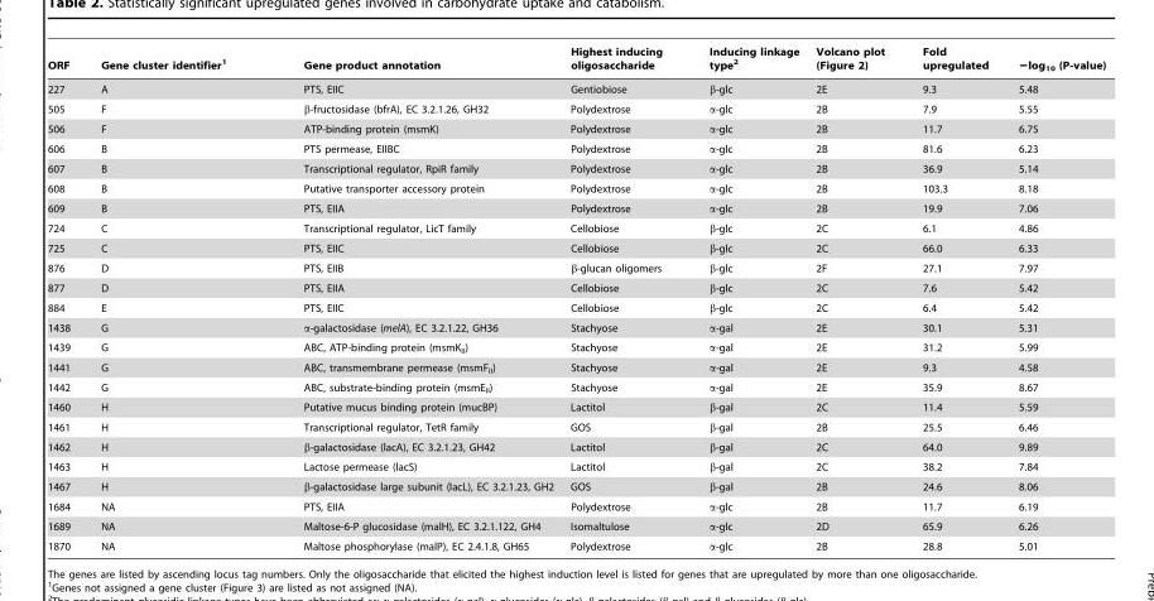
<table><thead><tr><td>ORF</td><td>Gene cluster identifier<sup>1</sup></td><td>Gene product annotation</td><td>Highest inducing oligosaccharide</td><td>Inducing linkage type<sup>2</sup></td><td>Volcano plot (Figure 2)</td><td>Fold upregulated</td><td>−log<sub>10</sub> (P-value)</td></tr></thead><tbody><tr><td>227</td><td>A</td><td>PTS, EIIC</td><td>Gentiobiose</td><td>β-glc</td><td>2E</td><td>9.3</td><td>5.48</td></tr><tr><td>505</td><td>F</td><td>β-fructosidase (bfrA), EC 3.2.1.26, GH32</td><td>Polydextrose</td><td>α-glc</td><td>2B</td><td>7.9</td><td>5.55</td></tr><tr><td>506</td><td>F</td><td>ATP-binding protein (msmK)</td><td>Polydextrose</td><td>α-glc</td><td>2B</td><td>11.7</td><td>6.75</td></tr><tr><td>606</td><td>B</td><td>PTS permease, EIIBC</td><td>Polydextrose</td><td>α-glc</td><td>2B</td><td>81.6</td><td>6.23</td></tr><tr><td>607</td><td>B</td><td>Transcriptional regulator, RpiR family</td><td>Polydextrose</td><td>α-glc</td><td>2B</td><td>36.9</td><td>5.14</td></tr><tr><td>608</td><td>B</td><td>Putative transporter accessory protein</td><td>Polydextrose</td><td>α-glc</td><td>2B</td><td>103.3</td><td>8.18</td></tr><tr><td>609</td><td>B</td><td>PTS, EIIA</td><td>Polydextrose</td><td>α-glc</td><td>2B</td><td>19.9</td><td>7.06</td></tr><tr><td>724</td><td>C</td><td>Transcriptional regulator, LicT family</td><td>Cellobiose</td><td>β-glc</td><td>2C</td><td>6.1</td><td>4.86</td></tr><tr><td>725</td><td>C</td><td>PTS, EIIC</td><td>Cellobiose</td><td>β-glc</td><td>2C</td><td>66.0</td><td>6.33</td></tr><tr><td>876</td><td>D</td><td>PTS, EIIB</td><td>β-glucan oligomers</td><td>β-glc</td><td>2F</td><td>27.1</td><td>7.97</td></tr><tr><td>877</td><td>D</td><td>PTS, EIIA</td><td>Cellobiose</td><td>β-glc</td><td>2C</td><td>7.6</td><td>5.42</td></tr><tr><td>884</td><td>E</td><td>PTS, EIIC</td><td>Cellobiose</td><td>β-glc</td><td>2C</td><td>6.4</td><td>5.42</td></tr><tr><td>1438</td><td>G</td><td>α-galactosidase (melA), EC 3.2.1.22, GH36</td><td>Stachyose</td><td>α-gal</td><td>2E</td><td>30.1</td><td>5.31</td></tr><tr><td>1439</td><td>G</td><td>ABC, ATP-binding protein (msmK<sub>II</sub>)</td><td>Stachyose</td><td>α-gal</td><td>2E</td><td>31.2</td><td>5.99</td></tr><tr><td>1441</td><td>G</td><td>ABC, transmembrane permease (msmF<sub>II</sub>)</td><td>Stachyose</td><td>α-gal</td><td>2E</td><td>9.3</td><td>4.58</td></tr><tr><td>1442</td><td>G</td><td>ABC, substrate-binding protein (msmE<sub>II</sub>)</td><td>Stachyose</td><td>α-gal</td><td>2E</td><td>35.9</td><td>8.67</td></tr><tr><td>1460</td><td>H</td><td>Putative mucus binding protein (mucBP)</td><td>Lactitol</td><td>β-gal</td><td>2C</td><td>11.4</td><td>5.59</td></tr><tr><td>1461</td><td>H</td><td>Transcriptional regulator, TetR family</td><td>GOS</td><td>β-gal</td><td>2B</td><td>25.5</td><td>6.46</td></tr><tr><td>1462</td><td>H</td><td>β-galactosidase (lacA), EC 3.2.1.23, GH42</td><td>Lactitol</td><td>β-gal</td><td>2C</td><td>64.0</td><td>9.89</td></tr><tr><td>1463</td><td>H</td><td>Lactose permease (lacS)</td><td>Lactitol</td><td>β-gal</td><td>2C</td><td>38.2</td><td>7.84</td></tr><tr><td>1467</td><td>H</td><td>β-galactosidase large subunit (lacL), EC 3.2.1.23, GH2</td><td>GOS</td><td>β-gal</td><td>2B</td><td>24.6</td><td>8.06</td></tr><tr><td>1684</td><td>NA</td><td>PTS, EIIA</td><td>Polydextrose</td><td>α-glc</td><td>2B</td><td>11.7</td><td>6.19</td></tr><tr><td>1689</td><td>NA</td><td>Maltose-6-P glucosidase (malH), EC 3.2.1.122, GH4</td><td>Isomaltulose</td><td>α-glc</td><td>2D</td><td>65.9</td><td>6.26</td></tr><tr><td>1870</td><td>NA</td><td>Maltose phosphorylase (malP), EC 2.4.1.8, GH65</td><td>Polydextrose</td><td>α-glc</td><td>2B</td><td>28.8</td><td>5.01</td></tr></tbody></table>